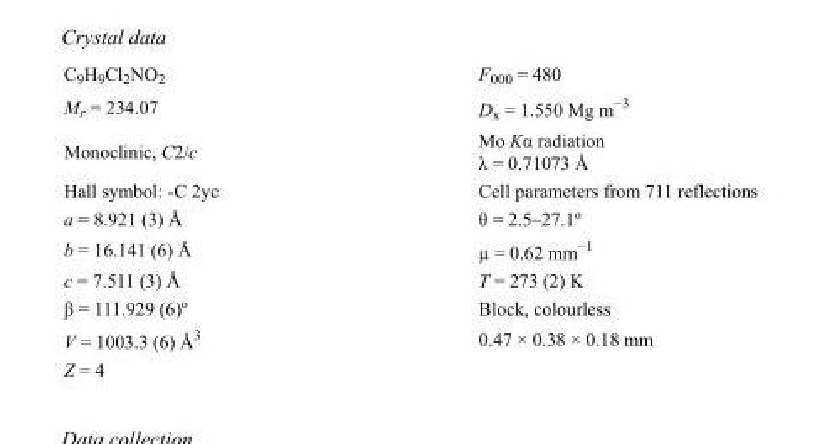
<table><tbody><tr><td>C<sub>9</sub>H<sub>9</sub>Cl<sub>2</sub>NO<sub>2</sub></td><td>F<sub>000</sub> = 480</td></tr><tr><td>M<sub>r</sub> = 234.07</td><td>D<sub>x</sub> = 1.550 Mg m<sup>−3</sup></td></tr><tr><td>Monoclinic, C2/c</td><td>Mo Kα radiation λ = 0.71073 Å</td></tr><tr><td>Hall symbol: -C 2yc</td><td>Cell parameters from 711 reflections</td></tr><tr><td>a = 8.921 (3) Å</td><td>θ = 2.5–27.1º</td></tr><tr><td>b = 16.141 (6) Å</td><td>µ = 0.62 mm<sup>−1</sup></td></tr><tr><td>c = 7.511 (3) Å</td><td>T = 273 (2) K</td></tr><tr><td>β = 111.929 (6)º</td><td>Block, colourless</td></tr><tr><td>V = 1003.3 (6) Å<sup>3</sup></td><td>0.47 × 0.38 × 0.18 mm</td></tr><tr><td>Z = 4</td><td></td></tr></tbody></table>